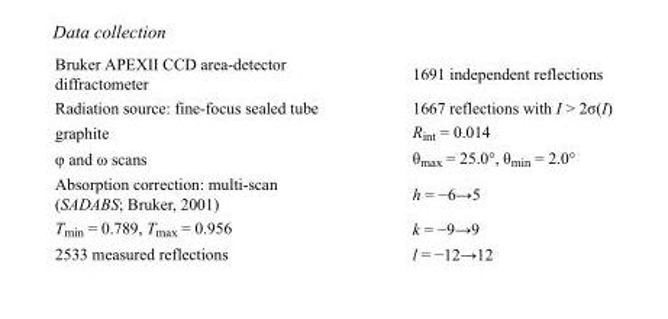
<table><tbody><tr><td>Bruker APEXII CCD area-detector diffractometer</td><td>1691 independent reflections</td></tr><tr><td>Radiation source: fine-focus sealed tube</td><td>1667 reflections with I &gt; 2σ(I)</td></tr><tr><td>graphite</td><td>R<sub>int</sub> = 0.014</td></tr><tr><td>φ and ω scans</td><td>θ<sub>max</sub> = 25.0°, θ<sub>min</sub> = 2.0°</td></tr><tr><td>Absorption correction: multi-scan (SADABS; Bruker, 2001)</td><td>h = −6→5</td></tr><tr><td>T<sub>min</sub> = 0.789, T<sub>max</sub> = 0.956</td><td>k = −9→9</td></tr><tr><td>2533 measured reflections</td><td>l = −12→12</td></tr></tbody></table>